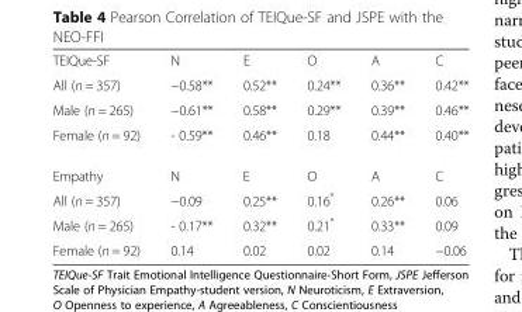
<table><tbody><tr><td>TEIQue-SF</td><td>N</td><td>E</td><td>O</td><td>A</td><td>C</td></tr><tr><td>All (n = 357)</td><td>−0.58**</td><td>0.52**</td><td>0.24**</td><td>0.36**</td><td>0.42**</td></tr><tr><td>Male (n = 265)</td><td>−0.61**</td><td>0.58**</td><td>0.29**</td><td>0.39**</td><td>0.46**</td></tr><tr><td>Female (n = 92)</td><td>- 0.59**</td><td>0.46**</td><td>0.18</td><td>0.44**</td><td>0.40**</td></tr><tr><td>Empathy</td><td>N</td><td>E</td><td>O</td><td>A</td><td>C</td></tr><tr><td>All (n = 357)</td><td>−0.09</td><td>0.25**</td><td>0.16*</td><td>0.26**</td><td>0.06</td></tr><tr><td>Male (n = 265)</td><td>- 0.17**</td><td>0.32**</td><td>0.21*</td><td>0.33**</td><td>0.09</td></tr><tr><td>Female (n = 92)</td><td>0.14</td><td>0.02</td><td>0.02</td><td>0.14</td><td>−0.06</td></tr></tbody></table>